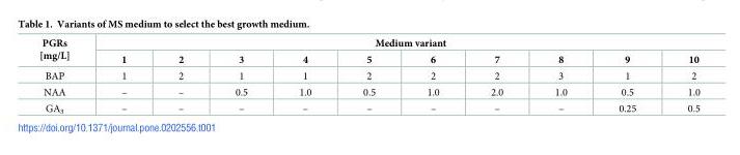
<table><tbody><tr><td rowspan="2">PGRs [mg/L]</td><td colspan="10">Medium variant</td></tr><tr><td>1</td><td>2</td><td>3</td><td>4</td><td>5</td><td>6</td><td>7</td><td>8</td><td>9</td><td>10</td></tr><tr><td>BAP</td><td>1</td><td>2</td><td>1</td><td>1</td><td>2</td><td>2</td><td>2</td><td>3</td><td>1</td><td>2</td></tr><tr><td>NAA</td><td>–</td><td>–</td><td>0.5</td><td>1.0</td><td>0.5</td><td>1.0</td><td>2.0</td><td>1.0</td><td>0.5</td><td>1.0</td></tr><tr><td>GA<sub>3</sub></td><td>–</td><td>–</td><td>–</td><td>–</td><td>–</td><td>–</td><td>–</td><td>–</td><td>0.25</td><td>0.5</td></tr></tbody></table>